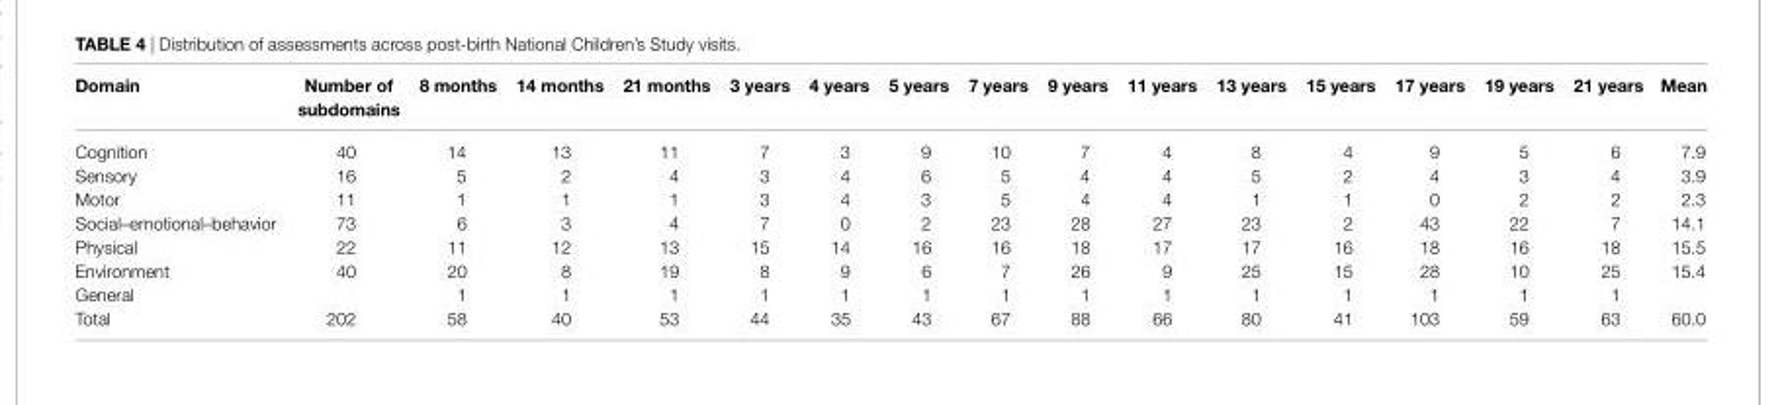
<table><thead><tr><td>Domain</td><td>Number of subdomains</td><td>8 months</td><td>14 months</td><td>21 months</td><td>3 years</td><td>4 years</td><td>5 years</td><td>7 years</td><td>9 years</td><td>11 years</td><td>13 years</td><td>15 years</td><td>17 years</td><td>19 years</td><td>21 years</td><td>Mean</td></tr></thead><tbody><tr><td>Cognition</td><td>40</td><td>14</td><td>13</td><td>11</td><td>7</td><td>3</td><td>9</td><td>10</td><td>7</td><td>4</td><td>8</td><td>4</td><td>9</td><td>5</td><td>6</td><td>7.9</td></tr><tr><td>Sensory</td><td>16</td><td>5</td><td>2</td><td>4</td><td>3</td><td>4</td><td>6</td><td>5</td><td>4</td><td>4</td><td>5</td><td>2</td><td>4</td><td>3</td><td>4</td><td>3.9</td></tr><tr><td>Motor</td><td>11</td><td>1</td><td>1</td><td>1</td><td>3</td><td>4</td><td>3</td><td>5</td><td>4</td><td>4</td><td>1</td><td>1</td><td>0</td><td>2</td><td>2</td><td>2.3</td></tr><tr><td>Social–emotional–behavior</td><td>73</td><td>6</td><td>3</td><td>4</td><td>7</td><td>0</td><td>2</td><td>23</td><td>28</td><td>27</td><td>23</td><td>2</td><td>43</td><td>22</td><td>7</td><td>14.1</td></tr><tr><td>Physical</td><td>22</td><td>11</td><td>12</td><td>13</td><td>15</td><td>14</td><td>16</td><td>16</td><td>18</td><td>17</td><td>17</td><td>16</td><td>18</td><td>16</td><td>18</td><td>15.5</td></tr><tr><td>Environment</td><td>40</td><td>20</td><td>8</td><td>19</td><td>8</td><td>9</td><td>6</td><td>7</td><td>26</td><td>9</td><td>25</td><td>15</td><td>28</td><td>10</td><td>25</td><td>15.4</td></tr><tr><td>General</td><td></td><td>1</td><td>1</td><td>1</td><td>1</td><td>1</td><td>1</td><td>1</td><td>1</td><td>1</td><td>1</td><td>1</td><td>1</td><td>1</td><td>1</td><td></td></tr><tr><td>Total</td><td>202</td><td>58</td><td>40</td><td>53</td><td>44</td><td>35</td><td>43</td><td>67</td><td>88</td><td>66</td><td>80</td><td>41</td><td>103</td><td>59</td><td>63</td><td>60.0</td></tr></tbody></table>